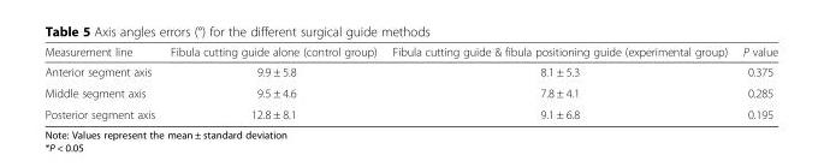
<table><thead><tr><td>Measurement line</td><td>Fibula cutting guide alone (control group)</td><td>Fibula cutting guide &amp; fibula positioning guide (experimental group)</td><td>P value</td></tr></thead><tbody><tr><td>Anterior segment axis</td><td>9.9 ± 5.8</td><td>8.1 ± 5.3</td><td>0.375</td></tr><tr><td>Middle segment axis</td><td>9.5 ± 4.6</td><td>7.8 ± 4.1</td><td>0.285</td></tr><tr><td>Posterior segment axis</td><td>12.8 ± 8.1</td><td>9.1 ± 6.8</td><td>0.195</td></tr></tbody></table>